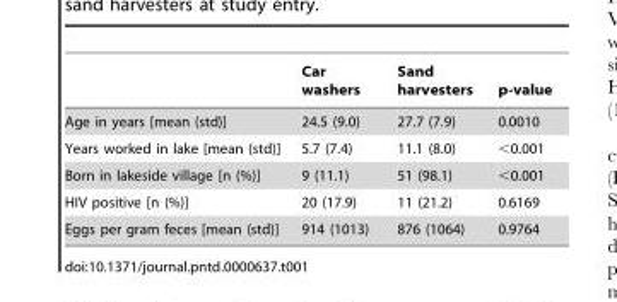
<table><thead><tr><td></td><td>Car washers</td><td>Sand harvesters</td><td>p-value</td></tr></thead><tbody><tr><td>Age in years [mean (std)]</td><td>24.5 (9.0)</td><td>27.7 (7.9)</td><td>0.0010</td></tr><tr><td>Years worked in lake [mean (std)]</td><td>5.7 (7.4)</td><td>11.1 (8.0)</td><td>&lt;0.001</td></tr><tr><td>Born in lakeside village [n (%)]</td><td>9 (11.1)</td><td>51 (98.1)</td><td>&lt;0.001</td></tr><tr><td>HIV positive [n (%)]</td><td>20 (17.9)</td><td>11 (21.2)</td><td>0.6169</td></tr><tr><td>Eggs per gram feces [mean (std)]</td><td>914 (1013)</td><td>876 (1064)</td><td>0.9764</td></tr></tbody></table>